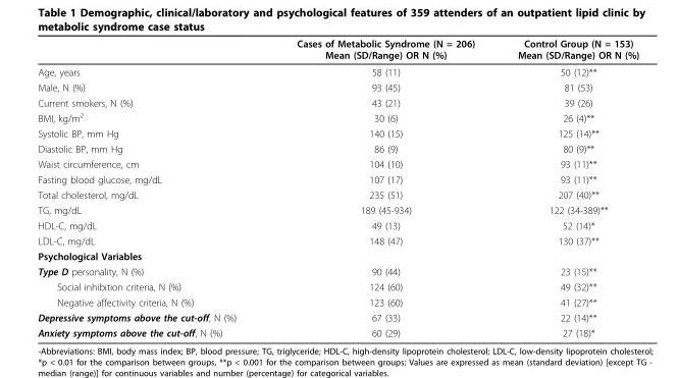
<table><thead><tr><td></td><td>Cases of Metabolic Syndrome (N = 206) Mean (SD/Range) OR N (%)</td><td>Control Group (N = 153) Mean (SD/Range) OR N (%)</td></tr></thead><tbody><tr><td>Age, years</td><td>58 (11)</td><td>50 (12)**</td></tr><tr><td>Male, N (%)</td><td>93 (45)</td><td>81 (53)</td></tr><tr><td>Current smokers, N (%)</td><td>43 (21)</td><td>39 (26)</td></tr><tr><td>BMI, kg/m<sup>2</sup></td><td>30 (6)</td><td>26 (4)**</td></tr><tr><td>Systolic BP, mm Hg</td><td>140 (15)</td><td>125 (14)**</td></tr><tr><td>Diastolic BP, mm Hg</td><td>86 (9)</td><td>80 (9)**</td></tr><tr><td>Waist circumference, cm</td><td>104 (10)</td><td>93 (11)**</td></tr><tr><td>Fasting blood glucose, mg/dL</td><td>107 (17)</td><td>93 (11)**</td></tr><tr><td>Total cholesterol, mg/dL</td><td>235 (51)</td><td>207 (40)**</td></tr><tr><td>TG, mg/dL</td><td>189 (45-934)</td><td>122 (34-389)**</td></tr><tr><td>HDL-C, mg/dL</td><td>49 (13)</td><td>52 (14)*</td></tr><tr><td>LDL-C, mg/dL</td><td>148 (47)</td><td>130 (37)**</td></tr><tr><td colspan="3">Psychological Variables</td></tr><tr><td>Type D personality, N (%)</td><td>90 (44)</td><td>23 (15)**</td></tr><tr><td>Social inhibition criteria, N (%)</td><td>124 (60)</td><td>49 (32)**</td></tr><tr><td>Negative affectivity criteria, N (%)</td><td>123 (60)</td><td>41 (27)**</td></tr><tr><td>Depressive symptoms above the cut-off, N (%)</td><td>67 (33)</td><td>22 (14)**</td></tr><tr><td>Anxiety symptoms above the cut-off, N (%)</td><td>60 (29)</td><td>27 (18)*</td></tr></tbody></table>